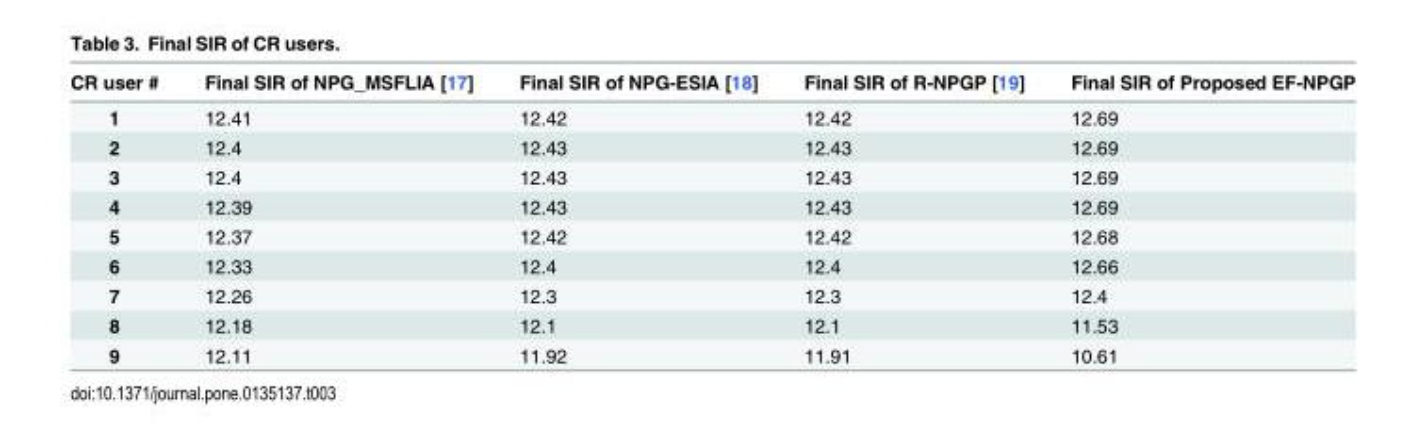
<table><thead><tr><td>CR user #</td><td>Final SIR of NPG_MSFLIA [17]</td><td>Final SIR of NPG-ESIA [18]</td><td>Final SIR of R-NPGP [19]</td><td>Final SIR of Proposed EF-NPGP</td></tr></thead><tbody><tr><td>1</td><td>12.41</td><td>12.42</td><td>12.42</td><td>12.69</td></tr><tr><td>2</td><td>12.4</td><td>12.43</td><td>12.43</td><td>12.69</td></tr><tr><td>3</td><td>12.4</td><td>12.43</td><td>12.43</td><td>12.69</td></tr><tr><td>4</td><td>12.39</td><td>12.43</td><td>12.43</td><td>12.69</td></tr><tr><td>5</td><td>12.37</td><td>12.42</td><td>12.42</td><td>12.68</td></tr><tr><td>6</td><td>12.33</td><td>12.4</td><td>12.4</td><td>12.66</td></tr><tr><td>7</td><td>12.26</td><td>12.3</td><td>12.3</td><td>12.4</td></tr><tr><td>8</td><td>12.18</td><td>12.1</td><td>12.1</td><td>11.53</td></tr><tr><td>9</td><td>12.11</td><td>11.92</td><td>11.91</td><td>10.61</td></tr></tbody></table>